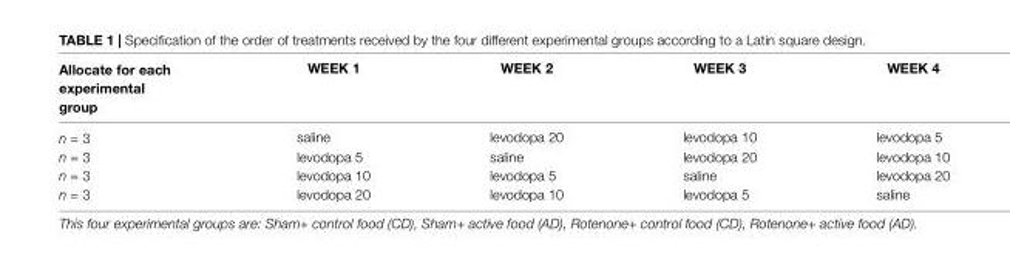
<table><thead><tr><td>Allocate for each experimental group</td><td>WEEK 1</td><td>WEEK 2</td><td>WEEK 3</td><td>WEEK 4</td></tr></thead><tbody><tr><td>n = 3</td><td>saline</td><td>levodopa 20</td><td>levodopa 10</td><td>levodopa 5</td></tr><tr><td>n = 3</td><td>levodopa 5</td><td>saline</td><td>levodopa 20</td><td>levodopa 10</td></tr><tr><td>n = 3</td><td>levodopa 10</td><td>levodopa 5</td><td>saline</td><td>levodopa 20</td></tr><tr><td>n = 3</td><td>levodopa 20</td><td>levodopa 10</td><td>levodopa 5</td><td>saline</td></tr></tbody></table>